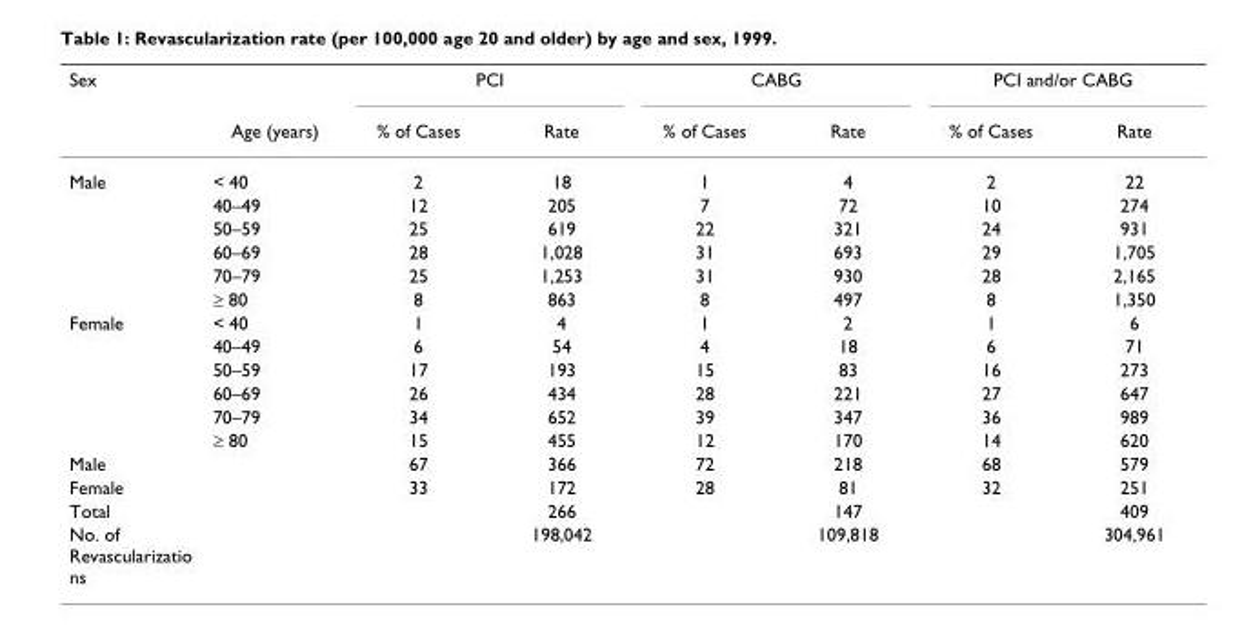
<table><thead><tr><td rowspan="2">Sex</td><td rowspan="2">Age (years)</td><td colspan="2">PCI</td><td colspan="2">CABG</td><td colspan="2">PCI and/or CABG</td></tr><tr><td>% of Cases</td><td>Rate</td><td>% of Cases</td><td>Rate</td><td>% of Cases</td><td>Rate</td></tr></thead><tbody><tr><td rowspan="6">Male</td><td>&lt; 40</td><td>2</td><td>18</td><td>1</td><td>4</td><td>2</td><td>22</td></tr><tr><td>40–49</td><td>12</td><td>205</td><td>7</td><td>72</td><td>10</td><td>274</td></tr><tr><td>50–59</td><td>25</td><td>619</td><td>22</td><td>321</td><td>24</td><td>931</td></tr><tr><td>60–69</td><td>28</td><td>1,028</td><td>31</td><td>693</td><td>29</td><td>1,705</td></tr><tr><td>70–79</td><td>25</td><td>1,253</td><td>31</td><td>930</td><td>28</td><td>2,165</td></tr><tr><td>≥ 80</td><td>8</td><td>863</td><td>8</td><td>497</td><td>8</td><td>1,350</td></tr><tr><td rowspan="6">Female</td><td>&lt; 40</td><td>1</td><td>4</td><td>1</td><td>2</td><td>1</td><td>6</td></tr><tr><td>40–49</td><td>6</td><td>54</td><td>4</td><td>18</td><td>6</td><td>71</td></tr><tr><td>50–59</td><td>17</td><td>193</td><td>15</td><td>83</td><td>16</td><td>273</td></tr><tr><td>60–69</td><td>26</td><td>434</td><td>28</td><td>221</td><td>27</td><td>647</td></tr><tr><td>70–79</td><td>34</td><td>652</td><td>39</td><td>347</td><td>36</td><td>989</td></tr><tr><td>≥ 80</td><td>15</td><td>455</td><td>12</td><td>170</td><td>14</td><td>620</td></tr><tr><td>Male</td><td></td><td>67</td><td>366</td><td>72</td><td>218</td><td>68</td><td>579</td></tr><tr><td>Female</td><td></td><td>33</td><td>172</td><td>28</td><td>81</td><td>32</td><td>251</td></tr><tr><td>Total</td><td></td><td></td><td>266</td><td></td><td>147</td><td></td><td>409</td></tr><tr><td>No. of Revascularizatio</td><td></td><td></td><td>198,042</td><td></td><td>109,818</td><td></td><td>304,961</td></tr></tbody></table>